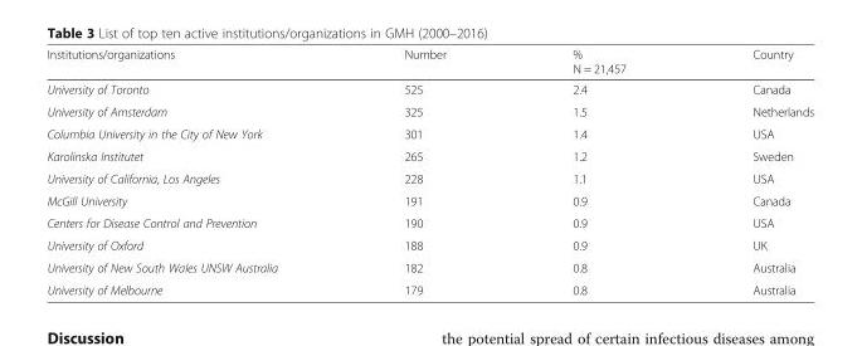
<table><thead><tr><td>Institutions/organizations</td><td>Number</td><td>% N = 21,457</td><td>Country</td></tr></thead><tbody><tr><td>University of Toronto</td><td>525</td><td>2.4</td><td>Canada</td></tr><tr><td>University of Amsterdam</td><td>325</td><td>1.5</td><td>Netherlands</td></tr><tr><td>Columbia University in the City of New York</td><td>301</td><td>1.4</td><td>USA</td></tr><tr><td>Karolinska Institutet</td><td>265</td><td>1.2</td><td>Sweden</td></tr><tr><td>University of California, Los Angeles</td><td>228</td><td>1.1</td><td>USA</td></tr><tr><td>McGill University</td><td>191</td><td>0.9</td><td>Canada</td></tr><tr><td>Centers for Disease Control and Prevention</td><td>190</td><td>0.9</td><td>USA</td></tr><tr><td>University of Oxford</td><td>188</td><td>0.9</td><td>UK</td></tr><tr><td>University of New South Wales UNSW Australia</td><td>182</td><td>0.8</td><td>Australia</td></tr><tr><td>University of Melbourne</td><td>179</td><td>0.8</td><td>Australia</td></tr></tbody></table>